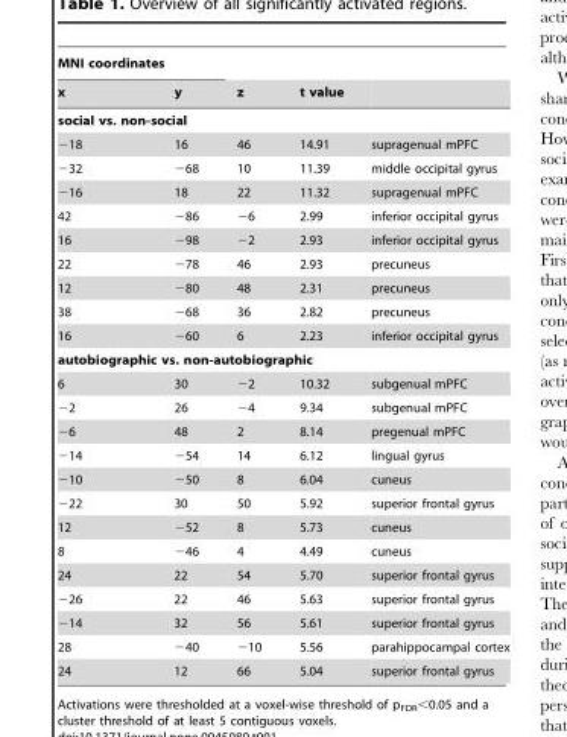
<table><thead><tr><td colspan="2">MNI coordinates</td><td rowspan="2">z</td><td rowspan="2">t value</td><td rowspan="2"></td></tr><tr><td>x</td><td>y</td></tr></thead><tbody><tr><td colspan="5">social vs. non-social</td></tr><tr><td>−18</td><td>16</td><td>46</td><td>14.91</td><td>supragenual mPFC</td></tr><tr><td>−32</td><td>−68</td><td>10</td><td>11.39</td><td>middle occipital gyrus</td></tr><tr><td>−16</td><td>18</td><td>22</td><td>11.32</td><td>supragenual mPFC</td></tr><tr><td>42</td><td>−86</td><td>−6</td><td>2.99</td><td>inferior occipital gyrus</td></tr><tr><td>16</td><td>−98</td><td>−2</td><td>2.93</td><td>inferior occipital gyrus</td></tr><tr><td>22</td><td>−78</td><td>46</td><td>2.93</td><td>precuneus</td></tr><tr><td>12</td><td>−80</td><td>48</td><td>2.31</td><td>precuneus</td></tr><tr><td>38</td><td>−68</td><td>36</td><td>2.82</td><td>precuneus</td></tr><tr><td>16</td><td>−60</td><td>6</td><td>2.23</td><td>inferior occipital gyrus</td></tr><tr><td colspan="5">autobiographic vs. non-autobiographic</td></tr><tr><td>6</td><td>30</td><td>−2</td><td>10.32</td><td>subgenual mPFC</td></tr><tr><td>−2</td><td>26</td><td>−4</td><td>9.34</td><td>subgenual mPFC</td></tr><tr><td>−6</td><td>48</td><td>2</td><td>8.14</td><td>pregenual mPFC</td></tr><tr><td>−14</td><td>−54</td><td>14</td><td>6.12</td><td>lingual gyrus</td></tr><tr><td>−10</td><td>−50</td><td>8</td><td>6.04</td><td>cuneus</td></tr><tr><td>−22</td><td>30</td><td>50</td><td>5.92</td><td>superior frontal gyrus</td></tr><tr><td>12</td><td>−52</td><td>8</td><td>5.73</td><td>cuneus</td></tr><tr><td>8</td><td>−46</td><td>4</td><td>4.49</td><td>cuneus</td></tr><tr><td>24</td><td>22</td><td>54</td><td>5.70</td><td>superior frontal gyrus</td></tr><tr><td>−26</td><td>22</td><td>46</td><td>5.63</td><td>superior frontal gyrus</td></tr><tr><td>−14</td><td>32</td><td>56</td><td>5.61</td><td>superior frontal gyrus</td></tr><tr><td>28</td><td>−40</td><td>−10</td><td>5.56</td><td>parahippocampal cortex</td></tr><tr><td>24</td><td>12</td><td>66</td><td>5.04</td><td>superior frontal gyrus</td></tr></tbody></table>